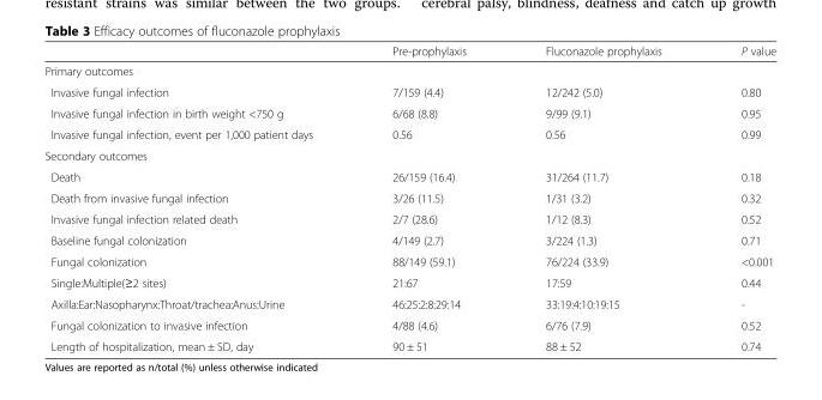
<table><thead><tr><td></td><td>Pre-prophylaxis</td><td>Fluconazole prophylaxis</td><td>P value</td></tr></thead><tbody><tr><td colspan="4">Primary outcomes</td></tr><tr><td>Invasive fungal infection</td><td>7/159 (4.4)</td><td>12/242 (5.0)</td><td>0.80</td></tr><tr><td>Invasive fungal infection in birth weight &lt;750 g</td><td>6/68 (8.8)</td><td>9/99 (9.1)</td><td>0.95</td></tr><tr><td>Invasive fungal infection, event per 1,000 patient days</td><td>0.56</td><td>0.56</td><td>0.99</td></tr><tr><td colspan="4">Secondary outcomes</td></tr><tr><td>Death</td><td>26/159 (16.4)</td><td>31/264 (11.7)</td><td>0.18</td></tr><tr><td>Death from invasive fungal infection</td><td>3/26 (11.5)</td><td>1/31 (3.2)</td><td>0.32</td></tr><tr><td>Invasive fungal infection related death</td><td>2/7 (28.6)</td><td>1/12 (8.3)</td><td>0.52</td></tr><tr><td>Baseline fungal colonization</td><td>4/149 (2.7)</td><td>3/224 (1.3)</td><td>0.71</td></tr><tr><td>Fungal colonization</td><td>88/149 (59.1)</td><td>76/224 (33.9)</td><td>&lt;0.001</td></tr><tr><td>Single:Multiple(≥2 sites)</td><td>21:67</td><td>17:59</td><td>0.44</td></tr><tr><td>Axilla:Ear:Nasopharynx:Throat/trachea:Anus:Urine</td><td>46:25:2:8:29:14</td><td>33:19:4:10:19:15</td><td>-</td></tr><tr><td>Fungal colonization to invasive infection</td><td>4/88 (4.6)</td><td>6/76 (7.9)</td><td>0.52</td></tr><tr><td>Length of hospitalization, mean ± SD, day</td><td>90 ± 51</td><td>88 ± 52</td><td>0.74</td></tr></tbody></table>